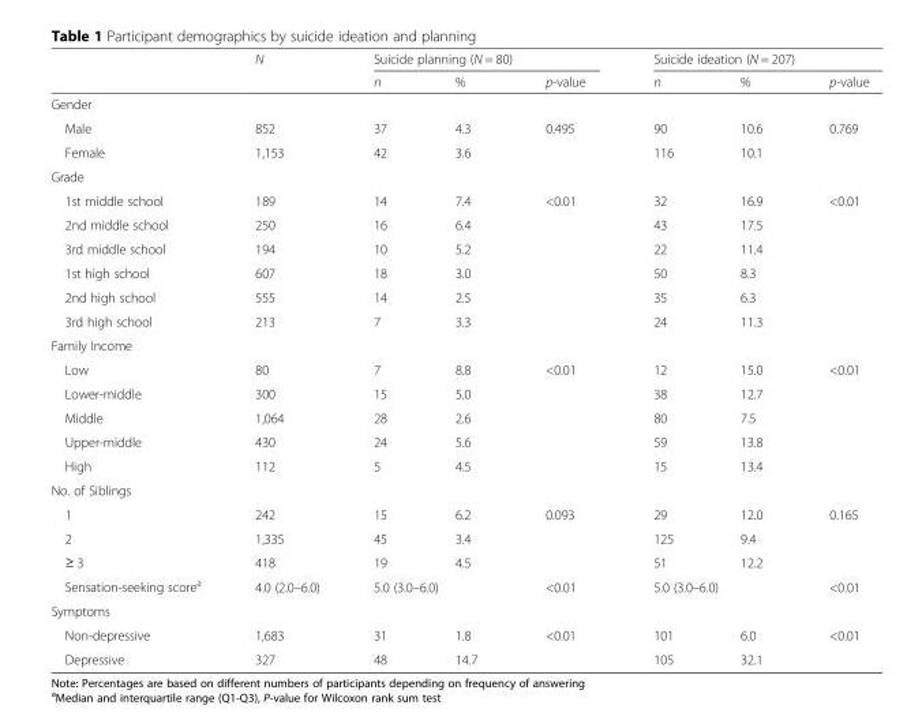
<table><thead><tr><td rowspan="2"></td><td rowspan="2">N</td><td colspan="3">Suicide planning (N = 80)</td><td colspan="3">Suicide ideation (N = 207)</td></tr><tr><td>n</td><td>%</td><td>p-value</td><td>n</td><td>%</td><td>p-value</td></tr></thead><tbody><tr><td colspan="8">Gender</td></tr><tr><td>Male</td><td>852</td><td>37</td><td>4.3</td><td>0.495</td><td>90</td><td>10.6</td><td>0.769</td></tr><tr><td>Female</td><td>1,153</td><td>42</td><td>3.6</td><td></td><td>116</td><td>10.1</td><td></td></tr><tr><td colspan="8">Grade</td></tr><tr><td>1st middle school</td><td>189</td><td>14</td><td>7.4</td><td>&lt;0.01</td><td>32</td><td>16.9</td><td>&lt;0.01</td></tr><tr><td>2nd middle school</td><td>250</td><td>16</td><td>6.4</td><td></td><td>43</td><td>17.5</td><td></td></tr><tr><td>3rd middle school</td><td>194</td><td>10</td><td>5.2</td><td></td><td>22</td><td>11.4</td><td></td></tr><tr><td>1st high school</td><td>607</td><td>18</td><td>3.0</td><td></td><td>50</td><td>8.3</td><td></td></tr><tr><td>2nd high school</td><td>555</td><td>14</td><td>2.5</td><td></td><td>35</td><td>6.3</td><td></td></tr><tr><td>3rd high school</td><td>213</td><td>7</td><td>3.3</td><td></td><td>24</td><td>11.3</td><td></td></tr><tr><td colspan="8">Family Income</td></tr><tr><td>Low</td><td>80</td><td>7</td><td>8.8</td><td>&lt;0.01</td><td>12</td><td>15.0</td><td>&lt;0.01</td></tr><tr><td>Lower-middle</td><td>300</td><td>15</td><td>5.0</td><td></td><td>38</td><td>12.7</td><td></td></tr><tr><td>Middle</td><td>1,064</td><td>28</td><td>2.6</td><td></td><td>80</td><td>7.5</td><td></td></tr><tr><td>Upper-middle</td><td>430</td><td>24</td><td>5.6</td><td></td><td>59</td><td>13.8</td><td></td></tr><tr><td>High</td><td>112</td><td>5</td><td>4.5</td><td></td><td>15</td><td>13.4</td><td></td></tr><tr><td colspan="8">No. of Siblings</td></tr><tr><td>1</td><td>242</td><td>15</td><td>6.2</td><td>0.093</td><td>29</td><td>12.0</td><td>0.165</td></tr><tr><td>2</td><td>1,335</td><td>45</td><td>3.4</td><td></td><td>125</td><td>9.4</td><td></td></tr><tr><td>≥ 3</td><td>418</td><td>19</td><td>4.5</td><td></td><td>51</td><td>12.2</td><td></td></tr><tr><td>Sensation-seeking score<sup>a</sup></td><td>4.0 (2.0–6.0)</td><td colspan="2">5.0 (3.0–6.0)</td><td>&lt;0.01</td><td colspan="2">5.0 (3.0–6.0)</td><td>&lt;0.01</td></tr><tr><td colspan="8">Symptoms</td></tr><tr><td>Non-depressive</td><td>1,683</td><td>31</td><td>1.8</td><td>&lt;0.01</td><td>101</td><td>6.0</td><td>&lt;0.01</td></tr><tr><td>Depressive</td><td>327</td><td>48</td><td>14.7</td><td></td><td>105</td><td>32.1</td><td></td></tr></tbody></table>